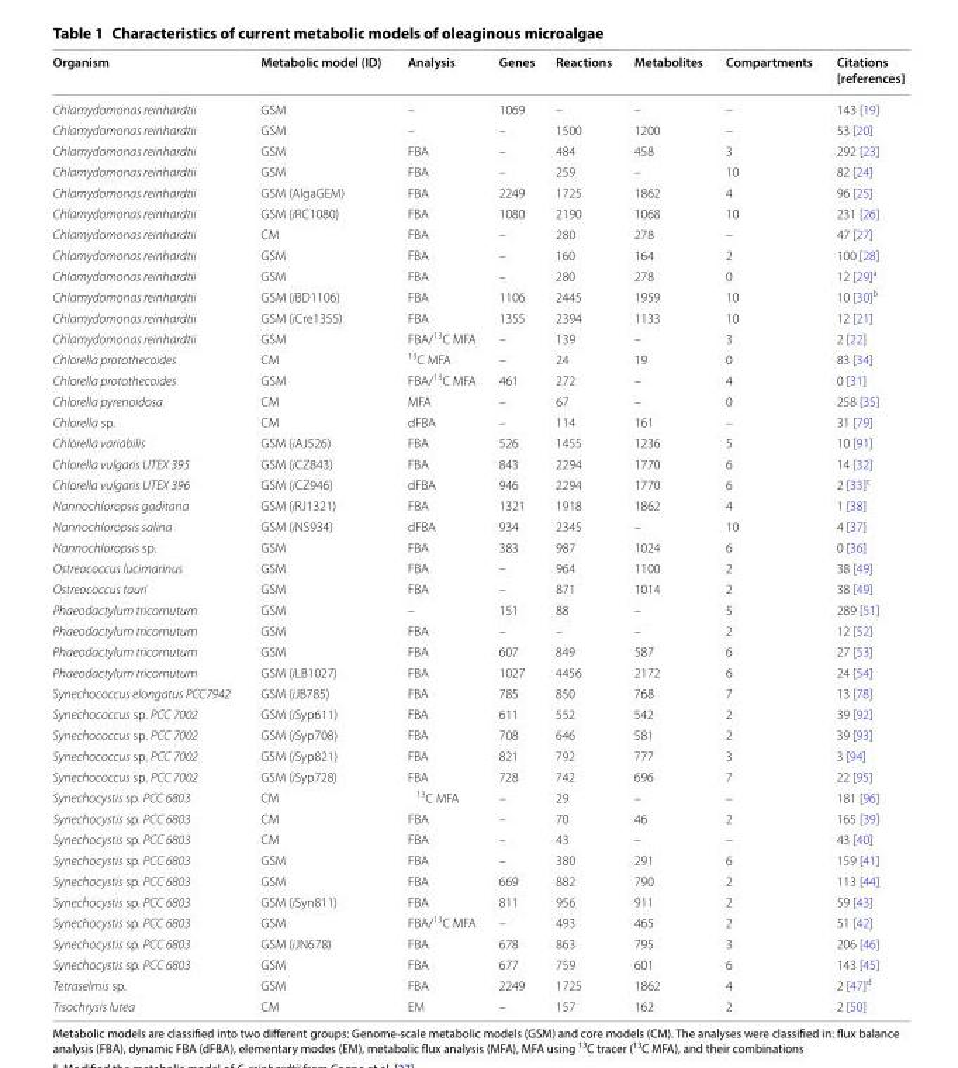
<table><thead><tr><td>Organism</td><td>Metabolic model (ID)</td><td>Analysis</td><td>Genes</td><td>Reactions</td><td>Metabolites</td><td>Compartments</td><td>Citations [references]</td></tr></thead><tbody><tr><td>Chlamydomonas reinhardtii</td><td>GSM</td><td>–</td><td>1069</td><td>–</td><td>–</td><td>–</td><td>143 [19]</td></tr><tr><td>Chlamydomonas reinhardtii</td><td>GSM</td><td>–</td><td>–</td><td>1500</td><td>1200</td><td>–</td><td>53 [20]</td></tr><tr><td>Chlamydomonas reinhardtii</td><td>GSM</td><td>FBA</td><td>–</td><td>484</td><td>458</td><td>3</td><td>292 [23]</td></tr><tr><td>Chlamydomonas reinhardtii</td><td>GSM</td><td>FBA</td><td>–</td><td>259</td><td>–</td><td>10</td><td>82 [24]</td></tr><tr><td>Chlamydomonas reinhardtii</td><td>GSM (AlgaGEM)</td><td>FBA</td><td>2249</td><td>1725</td><td>1862</td><td>4</td><td>96 [25]</td></tr><tr><td>Chlamydomonas reinhardtii</td><td>GSM (iRC1080)</td><td>FBA</td><td>1080</td><td>2190</td><td>1068</td><td>10</td><td>231 [26]</td></tr><tr><td>Chlamydomonas reinhardtii</td><td>CM</td><td>FBA</td><td>–</td><td>280</td><td>278</td><td>–</td><td>47 [27]</td></tr><tr><td>Chlamydomonas reinhardtii</td><td>GSM</td><td>FBA</td><td>–</td><td>160</td><td>164</td><td>2</td><td>100 [28]</td></tr><tr><td>Chlamydomonas reinhardtii</td><td>GSM</td><td>FBA</td><td>–</td><td>280</td><td>278</td><td>0</td><td>12 [29]<sup>a</sup></td></tr><tr><td>Chlamydomonas reinhardtii</td><td>GSM (iBD1106)</td><td>FBA</td><td>1106</td><td>2445</td><td>1959</td><td>10</td><td>10 [30]<sup>b</sup></td></tr><tr><td>Chlamydomonas reinhardtii</td><td>GSM (iCre1355)</td><td>FBA</td><td>1355</td><td>2394</td><td>1133</td><td>10</td><td>12 [21]</td></tr><tr><td>Chlamydomonas reinhardtii</td><td>GSM</td><td>FBA/<sup>13</sup>C MFA</td><td>–</td><td>139</td><td>–</td><td>3</td><td>2 [22]</td></tr><tr><td>Chlorella protothecoides</td><td>CM</td><td><sup>13</sup>C MFA</td><td>–</td><td>24</td><td>19</td><td>0</td><td>83 [34]</td></tr><tr><td>Chlorella protothecoides</td><td>GSM</td><td>FBA/<sup>13</sup>C MFA</td><td>461</td><td>272</td><td>–</td><td>4</td><td>0 [31]</td></tr><tr><td>Chlorella pyrenoidosa</td><td>CM</td><td>MFA</td><td>–</td><td>67</td><td>–</td><td>0</td><td>258 [35]</td></tr><tr><td>Chlorella sp.</td><td>CM</td><td>dFBA</td><td>–</td><td>114</td><td>161</td><td>–</td><td>31 [79]</td></tr><tr><td>Chlorella variabilis</td><td>GSM (iAJ526)</td><td>FBA</td><td>526</td><td>1455</td><td>1236</td><td>5</td><td>10 [91]</td></tr><tr><td>Chlorella vulgaris UTEX 395</td><td>GSM (iCZ843)</td><td>FBA</td><td>843</td><td>2294</td><td>1770</td><td>6</td><td>14 [32]</td></tr><tr><td>Chlorella vulgaris UTEX 396</td><td>GSM (iCZ946)</td><td>dFBA</td><td>946</td><td>2294</td><td>1770</td><td>6</td><td>2 [33]<sup>c</sup></td></tr><tr><td>Nannochloropsis gaditana</td><td>GSM (iRJ1321)</td><td>FBA</td><td>1321</td><td>1918</td><td>1862</td><td>4</td><td>1 [38]</td></tr><tr><td>Nannochloropsis salina</td><td>GSM (iNS934)</td><td>dFBA</td><td>934</td><td>2345</td><td>–</td><td>10</td><td>4 [37]</td></tr><tr><td>Nannochloropsis sp.</td><td>GSM</td><td>FBA</td><td>383</td><td>987</td><td>1024</td><td>6</td><td>0 [36]</td></tr><tr><td>Ostreococcus lucimarinus</td><td>GSM</td><td>FBA</td><td>–</td><td>964</td><td>1100</td><td>2</td><td>38 [49]</td></tr><tr><td>Ostreococcus tauri</td><td>GSM</td><td>FBA</td><td>–</td><td>871</td><td>1014</td><td>2</td><td>38 [49]</td></tr><tr><td>Phaeodactylum tricornutum</td><td>GSM</td><td>–</td><td>151</td><td>88</td><td>–</td><td>5</td><td>289 [51]</td></tr><tr><td>Phaeodactylum tricornutum</td><td>GSM</td><td>FBA</td><td>–</td><td>–</td><td>–</td><td>2</td><td>12 [52]</td></tr><tr><td>Phaeodactylum tricornutum</td><td>GSM</td><td>FBA</td><td>607</td><td>849</td><td>587</td><td>6</td><td>27 [53]</td></tr><tr><td>Phaeodactylum tricornutum</td><td>GSM (iLB1027)</td><td>FBA</td><td>1027</td><td>4456</td><td>2172</td><td>6</td><td>24 [54]</td></tr><tr><td>Synechococcus elongatus PCC7942</td><td>GSM (iJB785)</td><td>FBA</td><td>785</td><td>850</td><td>768</td><td>7</td><td>13 [78]</td></tr><tr><td>Synechococcus sp. PCC 7002</td><td>GSM (iSyp611)</td><td>FBA</td><td>611</td><td>552</td><td>542</td><td>2</td><td>39 [92]</td></tr><tr><td>Synechococcus sp. PCC 7002</td><td>GSM (iSyp708)</td><td>FBA</td><td>708</td><td>646</td><td>581</td><td>2</td><td>39 [93]</td></tr><tr><td>Synechococcus sp. PCC 7002</td><td>GSM (iSyp821)</td><td>FBA</td><td>821</td><td>792</td><td>777</td><td>3</td><td>3 [94]</td></tr><tr><td>Synechococcus sp. PCC 7002</td><td>GSM (iSyp728)</td><td>FBA</td><td>728</td><td>742</td><td>696</td><td>7</td><td>22 [95]</td></tr><tr><td>Synechocystis sp. PCC 6803</td><td>CM</td><td><sup>13</sup>C MFA</td><td>–</td><td>29</td><td>–</td><td>–</td><td>181 [96]</td></tr><tr><td>Synechocystis sp. PCC 6803</td><td>CM</td><td>FBA</td><td>–</td><td>70</td><td>46</td><td>2</td><td>165 [39]</td></tr><tr><td>Synechocystis sp. PCC 6803</td><td>CM</td><td>FBA</td><td>–</td><td>43</td><td>–</td><td>–</td><td>43 [40]</td></tr><tr><td>Synechocystis sp. PCC 6803</td><td>GSM</td><td>FBA</td><td>–</td><td>380</td><td>291</td><td>6</td><td>159 [41]</td></tr><tr><td>Synechocystis sp. PCC 6803</td><td>GSM</td><td>FBA</td><td>669</td><td>882</td><td>790</td><td>2</td><td>113 [44]</td></tr><tr><td>Synechocystis sp. PCC 6803</td><td>GSM (iSyn811)</td><td>FBA</td><td>811</td><td>956</td><td>911</td><td>2</td><td>59 [43]</td></tr><tr><td>Synechocystis sp. PCC 6803</td><td>GSM</td><td>FBA/<sup>13</sup>C MFA</td><td>–</td><td>493</td><td>465</td><td>2</td><td>51 [42]</td></tr><tr><td>Synechocystis sp. PCC 6803</td><td>GSM (iJN678)</td><td>FBA</td><td>678</td><td>863</td><td>795</td><td>3</td><td>206 [46]</td></tr><tr><td>Synechocystis sp. PCC 6803</td><td>GSM</td><td>FBA</td><td>677</td><td>759</td><td>601</td><td>6</td><td>143 [45]</td></tr><tr><td>Tetraselmis sp.</td><td>GSM</td><td>FBA</td><td>2249</td><td>1725</td><td>1862</td><td>4</td><td>2 [47]<sup>d</sup></td></tr><tr><td>Tisochrysis lutea</td><td>CM</td><td>EM</td><td>–</td><td>157</td><td>162</td><td>2</td><td>2 [50]</td></tr></tbody></table>